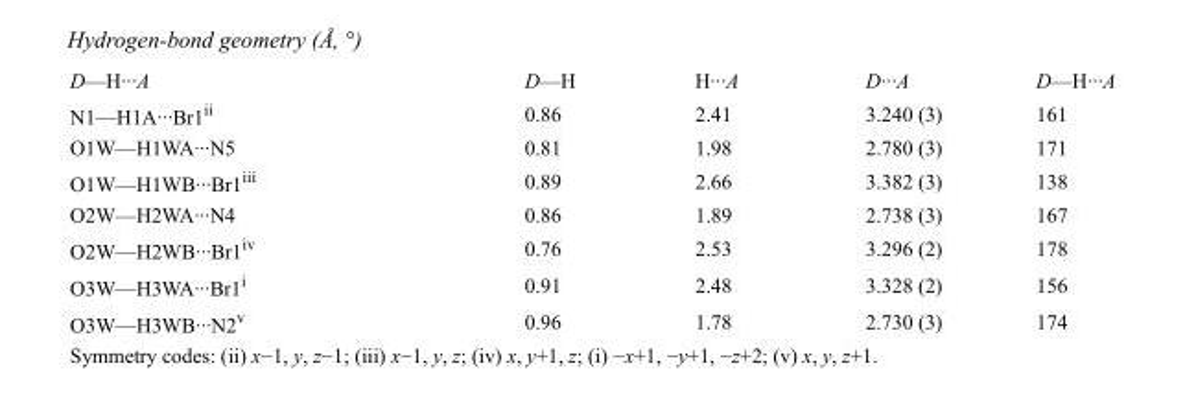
<table><tbody><tr><td>D—H···A</td><td>D—H</td><td>H···A</td><td>D···A</td><td>D—H···A</td></tr><tr><td>N1—H1A···Br1<sup>ii</sup></td><td>0.86</td><td>2.41</td><td>3.240 (3)</td><td>161</td></tr><tr><td>O1W—H1WA···N5</td><td>0.81</td><td>1.98</td><td>2.780 (3)</td><td>171</td></tr><tr><td>O1W—H1WB···Br1<sup>iii</sup></td><td>0.89</td><td>2.66</td><td>3.382 (3)</td><td>138</td></tr><tr><td>O2W—H2WA···N4</td><td>0.86</td><td>1.89</td><td>2.738 (3)</td><td>167</td></tr><tr><td>O2W—H2WB···Br1<sup>iv</sup></td><td>0.76</td><td>2.53</td><td>3.296 (2)</td><td>178</td></tr><tr><td>O3W—H3WA···Br1<sup>i</sup></td><td>0.91</td><td>2.48</td><td>3.328 (2)</td><td>156</td></tr><tr><td>O3W—H3WB···N2<sup>v</sup></td><td>0.96</td><td>1.78</td><td>2.730 (3)</td><td>174</td></tr></tbody></table>